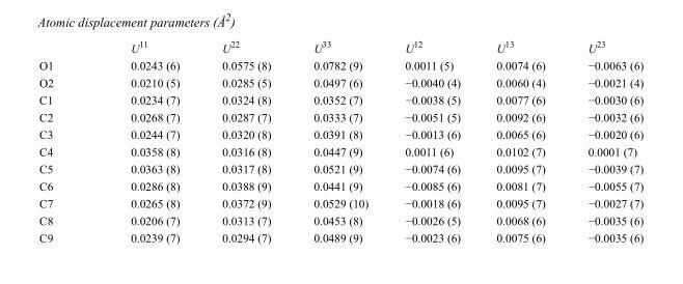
<table><thead><tr><td></td><td>U<sup>11</sup></td><td>U<sup>22</sup></td><td>U<sup>33</sup></td><td>U<sup>12</sup></td><td>U<sup>13</sup></td><td>U<sup>23</sup></td></tr></thead><tbody><tr><td>O1</td><td>0.0243 (6)</td><td>0.0575 (8)</td><td>0.0782 (9)</td><td>0.0011 (5)</td><td>0.0074 (6)</td><td>−0.0063 (6)</td></tr><tr><td>O2</td><td>0.0210 (5)</td><td>0.0285 (5)</td><td>0.0497 (6)</td><td>−0.0040 (4)</td><td>0.0060 (4)</td><td>−0.0021 (4)</td></tr><tr><td>C1</td><td>0.0234 (7)</td><td>0.0324 (8)</td><td>0.0352 (7)</td><td>−0.0038 (5)</td><td>0.0077 (6)</td><td>−0.0030 (6)</td></tr><tr><td>C2</td><td>0.0268 (7)</td><td>0.0287 (7)</td><td>0.0333 (7)</td><td>−0.0051 (5)</td><td>0.0092 (6)</td><td>−0.0032 (6)</td></tr><tr><td>C3</td><td>0.0244 (7)</td><td>0.0320 (8)</td><td>0.0391 (8)</td><td>−0.0013 (6)</td><td>0.0065 (6)</td><td>−0.0020 (6)</td></tr><tr><td>C4</td><td>0.0358 (8)</td><td>0.0316 (8)</td><td>0.0447 (9)</td><td>0.0011 (6)</td><td>0.0102 (7)</td><td>0.0001 (7)</td></tr><tr><td>C5</td><td>0.0363 (8)</td><td>0.0317 (8)</td><td>0.0521 (9)</td><td>−0.0074 (6)</td><td>0.0095 (7)</td><td>−0.0039 (7)</td></tr><tr><td>C6</td><td>0.0286 (8)</td><td>0.0388 (9)</td><td>0.0441 (9)</td><td>−0.0085 (6)</td><td>0.0081 (7)</td><td>−0.0055 (7)</td></tr><tr><td>C7</td><td>0.0265 (8)</td><td>0.0372 (9)</td><td>0.0529 (10)</td><td>−0.0018 (6)</td><td>0.0095 (7)</td><td>−0.0027 (7)</td></tr><tr><td>C8</td><td>0.0206 (7)</td><td>0.0313 (7)</td><td>0.0453 (8)</td><td>−0.0026 (5)</td><td>0.0068 (6)</td><td>−0.0035 (6)</td></tr><tr><td>C9</td><td>0.0239 (7)</td><td>0.0294 (7)</td><td>0.0489 (9)</td><td>−0.0023 (6)</td><td>0.0075 (6)</td><td>−0.0035 (6)</td></tr></tbody></table>